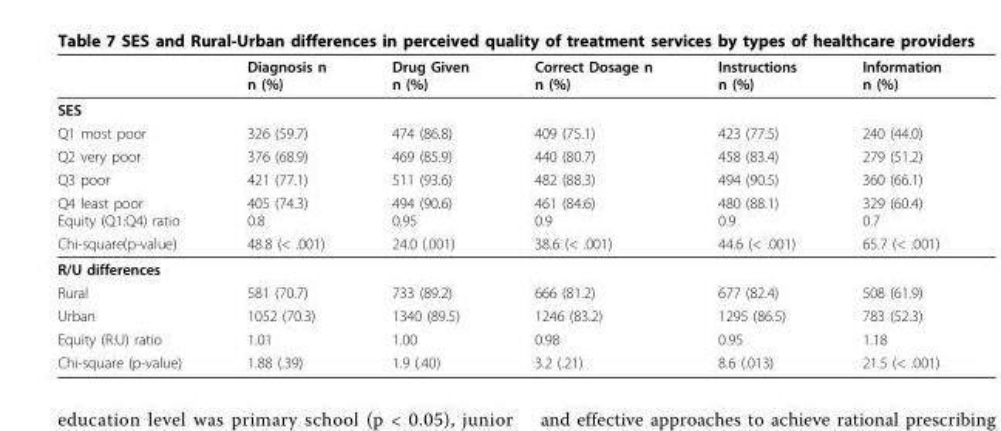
<table><thead><tr><td></td><td>Diagnosis n n (%)</td><td>Drug Given n (%)</td><td>Correct Dosage n n (%)</td><td>Instructions n (%)</td><td>Information n (%)</td></tr></thead><tbody><tr><td colspan="6">SES</td></tr><tr><td>Q1 most poor</td><td>326 (59.7)</td><td>474 (86.8)</td><td>409 (75.1)</td><td>423 (77.5)</td><td>240 (44.0)</td></tr><tr><td>Q2 very poor</td><td>376 (68.9)</td><td>469 (85.9)</td><td>440 (80.7)</td><td>458 (83.4)</td><td>279 (51.2)</td></tr><tr><td>Q3 poor</td><td>421 (77.1)</td><td>511 (93.6)</td><td>482 (88.3)</td><td>494 (90.5)</td><td>360 (66.1)</td></tr><tr><td>Q4 least poor Equity (Q1:Q4) ratio</td><td>405 (74.3) 0.8</td><td>494 (90.6) 0.95</td><td>461 (84.6) 0.9</td><td>480 (88.1) 0.9</td><td>329 (60.4) 0.7</td></tr><tr><td>Chi-square(p-value)</td><td>48.8 (&lt; .001)</td><td>24.0 (.001)</td><td>38.6 (&lt; .001)</td><td>44.6 (&lt; .001)</td><td>65.7 (&lt; .001)</td></tr><tr><td colspan="6">R/U differences</td></tr><tr><td>Rural</td><td>581 (70.7)</td><td>733 (89.2)</td><td>666 (81.2)</td><td>677 (82.4)</td><td>508 (61.9)</td></tr><tr><td>Urban</td><td>1052 (70.3)</td><td>1340 (89.5)</td><td>1246 (83.2)</td><td>1295 (86.5)</td><td>783 (52.3)</td></tr><tr><td>Equity (R:U) ratio</td><td>1.01</td><td>1.00</td><td>0.98</td><td>0.95</td><td>1.18</td></tr><tr><td>Chi-square (p-value)</td><td>1.88 (.39)</td><td>1.9 (.40)</td><td>3.2 (.21)</td><td>8.6 (.013)</td><td>21.5 (&lt; .001)</td></tr></tbody></table>